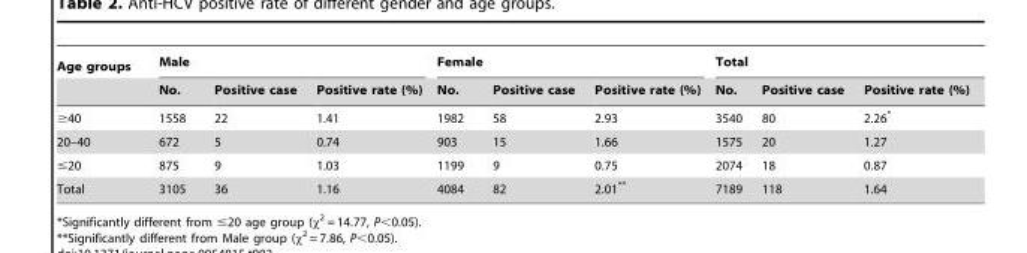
<table><thead><tr><td rowspan="2">Age groups</td><td colspan="3">Male</td><td colspan="3">Female</td><td colspan="3">Total</td></tr><tr><td>No.</td><td>Positive case</td><td>Positive rate (%)</td><td>No.</td><td>Positive case</td><td>Positive rate (%)</td><td>No.</td><td>Positive case</td><td>Positive rate (%)</td></tr></thead><tbody><tr><td>≥40</td><td>1558</td><td>22</td><td>1.41</td><td>1982</td><td>58</td><td>2.93</td><td>3540</td><td>80</td><td>2.26*</td></tr><tr><td>20–40</td><td>672</td><td>5</td><td>0.74</td><td>903</td><td>15</td><td>1.66</td><td>1575</td><td>20</td><td>1.27</td></tr><tr><td>≤20</td><td>875</td><td>9</td><td>1.03</td><td>1199</td><td>9</td><td>0.75</td><td>2074</td><td>18</td><td>0.87</td></tr><tr><td>Total</td><td>3105</td><td>36</td><td>1.16</td><td>4084</td><td>82</td><td>2.01**</td><td>7189</td><td>118</td><td>1.64</td></tr></tbody></table>